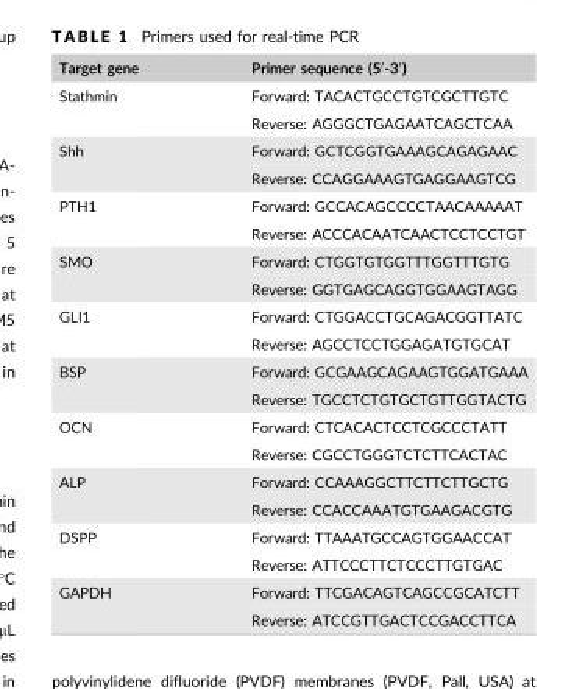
<table><thead><tr><td>Target gene</td><td>Primer sequence (5′-3′)</td></tr></thead><tbody><tr><td rowspan="2">Stathmin</td><td>Forward: TACACTGCCTGTCGCTTGTC</td></tr><tr><td>Reverse: AGGGCTGAGAATCAGCTCAA</td></tr><tr><td rowspan="2">Shh</td><td>Forward: GCTCGGTGAAAGCAGAGAAC</td></tr><tr><td>Reverse: CCAGGAAAGTGAGGAAGTCG</td></tr><tr><td rowspan="2">PTH1</td><td>Forward: GCCACAGCCCCTAACAAAAAT</td></tr><tr><td>Reverse: ACCCACAATCAACTCCTCCTGT</td></tr><tr><td rowspan="2">SMO</td><td>Forward: CTGGTGTGGTTTGGTTTGTG</td></tr><tr><td>Reverse: GGTGAGCAGGTGGAAGTAGG</td></tr><tr><td rowspan="2">GLI1</td><td>Forward: CTGGACCTGCAGACGGTTATC</td></tr><tr><td>Reverse: AGCCTCCTGGAGATGTGCAT</td></tr><tr><td rowspan="2">BSP</td><td>Forward: GCGAAGCAGAAGTGGATGAAA</td></tr><tr><td>Reverse: TGCCTCTGTGCTGTTGGTACTG</td></tr><tr><td rowspan="2">OCN</td><td>Forward: CTCACACTCCTCGCCCTATT</td></tr><tr><td>Reverse: CGCCTGGGTCTCTTCACTAC</td></tr><tr><td rowspan="2">ALP</td><td>Forward: CCAAAGGCTTCTTCTTGCTG</td></tr><tr><td>Reverse: CCACCAAATGTGAAGACGTG</td></tr><tr><td rowspan="2">DSPP</td><td>Forward: TTAAATGCCAGTGGAACCAT</td></tr><tr><td>Reverse: ATTCCCTTCTCCCTTGTGAC</td></tr><tr><td rowspan="2">GAPDH</td><td>Forward: TTCGACAGTCAGCCGCATCTT</td></tr><tr><td>Reverse: ATCCGTTGACTCCGACCTTCA</td></tr></tbody></table>